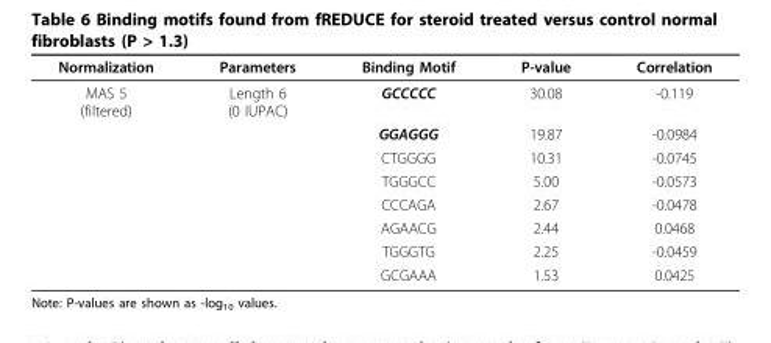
<table><thead><tr><td>Normalization</td><td>Parameters</td><td>Binding Motif</td><td>P-value</td><td>Correlation</td></tr></thead><tbody><tr><td rowspan="8">MAS 5 (filtered)</td><td>Length 6 (0 IUPAC)</td><td>GCCCCC</td><td>30.08</td><td>-0.119</td></tr><tr><td></td><td>GGAGGG</td><td>19.87</td><td>-0.0984</td></tr><tr><td></td><td>CTGGGG</td><td>10.31</td><td>-0.0745</td></tr><tr><td></td><td>TGGGCC</td><td>5.00</td><td>-0.0573</td></tr><tr><td></td><td>CCCAGA</td><td>2.67</td><td>-0.0478</td></tr><tr><td></td><td>AGAACG</td><td>2.44</td><td>0.0468</td></tr><tr><td></td><td>TGGGTG</td><td>2.25</td><td>-0.0459</td></tr><tr><td></td><td>GCGAAA</td><td>1.53</td><td>0.0425</td></tr></tbody></table>